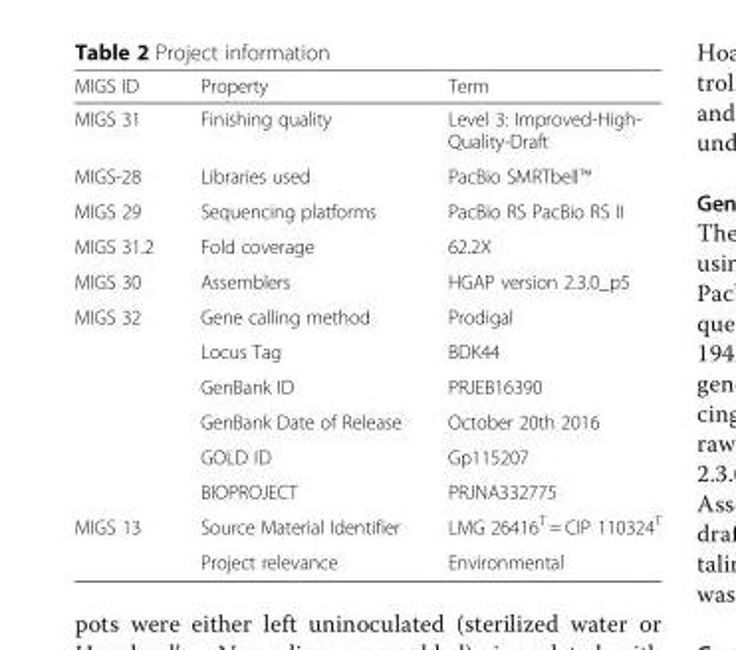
<table><thead><tr><td>MIGS ID</td><td>Property</td><td>Term</td></tr></thead><tbody><tr><td>MIGS 31</td><td>Finishing quality</td><td>Level 3: Improved-High- Quality-Draft</td></tr><tr><td>MIGS-28</td><td>Libraries used</td><td>PacBio SMRTbell™</td></tr><tr><td>MIGS 29</td><td>Sequencing platforms</td><td>PacBio RS PacBio RS II</td></tr><tr><td>MIGS 31.2</td><td>Fold coverage</td><td>62.2X</td></tr><tr><td>MIGS 30</td><td>Assemblers</td><td>HGAP version 2.3.0_p5</td></tr><tr><td rowspan="6">MIGS 32</td><td>Gene calling method</td><td>Prodigal</td></tr><tr><td>Locus Tag</td><td>BDK44</td></tr><tr><td>GenBank ID</td><td>PRJEB16390</td></tr><tr><td>GenBank Date of Release</td><td>October 20th 2016</td></tr><tr><td>GOLD ID</td><td>Gp115207</td></tr><tr><td>BIOPROJECT</td><td>PRJNA332775</td></tr><tr><td rowspan="2">MIGS 13</td><td>Source Material Identifier</td><td>LMG 26416<sup>T</sup> = CIP 110324<sup>T</sup></td></tr><tr><td>Project relevance</td><td>Environmental</td></tr></tbody></table>